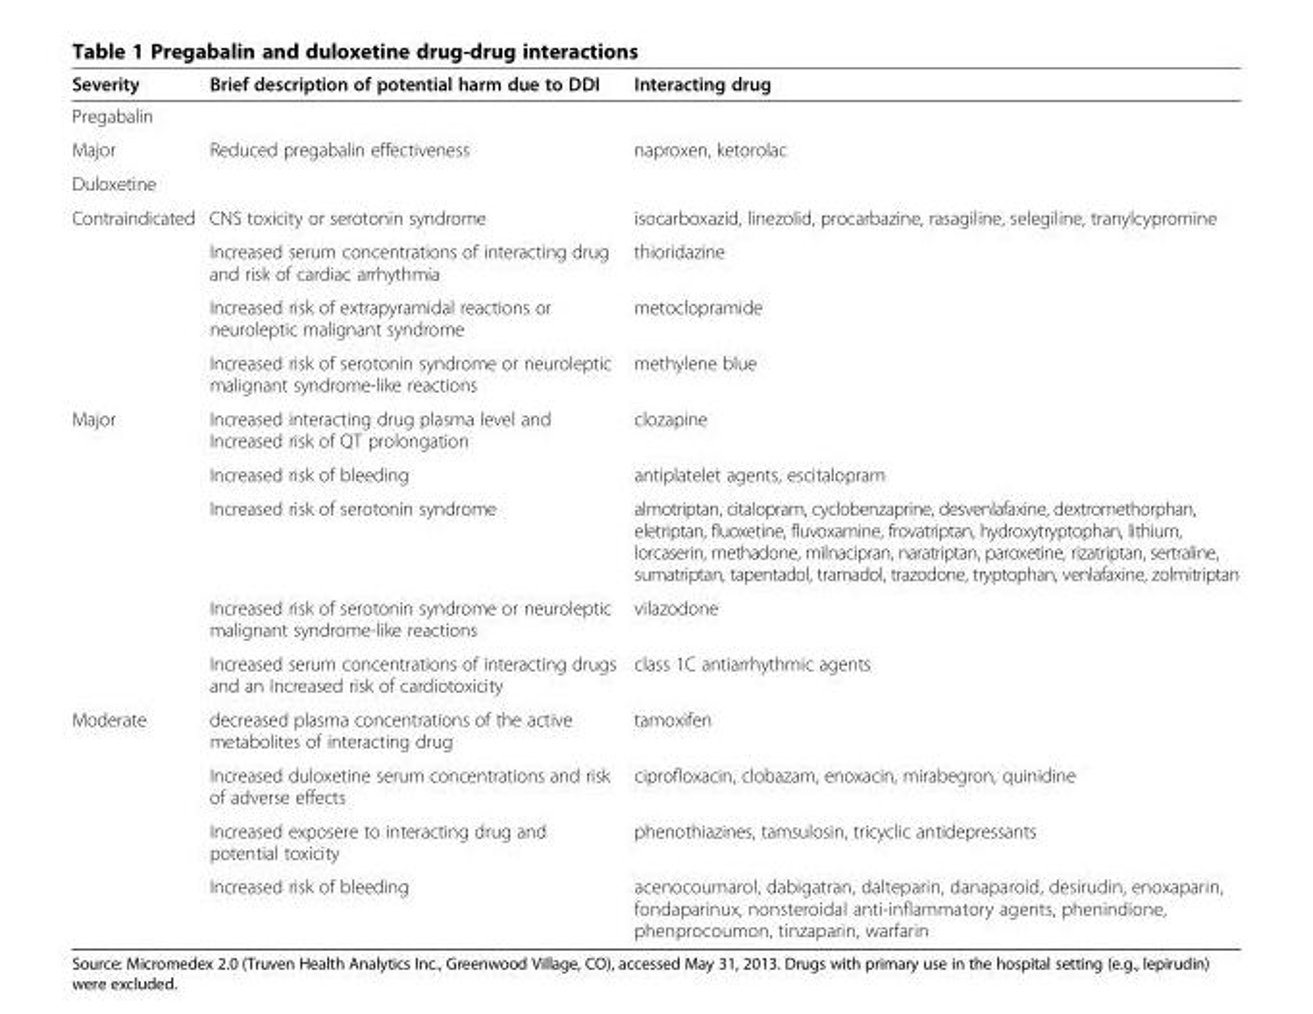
<table><thead><tr><td>Severity</td><td>Brief description of potential harm due to DDI</td><td>Interacting drug</td></tr></thead><tbody><tr><td colspan="3">Pregabalin</td></tr><tr><td>Major</td><td>Reduced pregabalin effectiveness</td><td>naproxen, ketorolac</td></tr><tr><td colspan="3">Duloxetine</td></tr><tr><td rowspan="4">Contraindicated</td><td>CNS toxicity or serotonin syndrome</td><td>isocarboxazid, linezolid, procarbazine, rasagiline, selegiline, tranylcypromine</td></tr><tr><td>Increased serum concentrations of interacting drug and risk of cardiac arrhythmia</td><td>thioridazine</td></tr><tr><td>Increased risk of extrapyramidal reactions or neuroleptic malignant syndrome</td><td>metoclopramide</td></tr><tr><td>Increased risk of serotonin syndrome or neuroleptic malignant syndrome-like reactions</td><td>methylene blue</td></tr><tr><td rowspan="5">Major</td><td>Increased interacting drug plasma level and Increased risk of QT prolongation</td><td>clozapine</td></tr><tr><td>Increased risk of bleeding</td><td>antiplatelet agents, escitalopram</td></tr><tr><td>Increased risk of serotonin syndrome</td><td>almotriptan, citalopram, cyclobenzaprine, desvenlafaxine, dextromethorphan, eletriptan, fluoxetine, fluvoxamine, frovatriptan, hydroxytryptophan, lithium, lorcaserin, methadone, milnacipran, naratriptan, paroxetine, rizatriptan, sertraline, sumatriptan, tapentadol, tramadol, trazodone, tryptophan, venlafaxine, zolmitriptan</td></tr><tr><td>Increased risk of serotonin syndrome or neuroleptic malignant syndrome-like reactions</td><td>vilazodone</td></tr><tr><td>Increased serum concentrations of interacting drugs and an Increased risk of cardiotoxicity</td><td>class 1C antiarrhythmic agents</td></tr><tr><td rowspan="4">Moderate</td><td>decreased plasma concentrations of the active metabolites of interacting drug</td><td>tamoxifen</td></tr><tr><td>Increased duloxetine serum concentrations and risk of adverse effects</td><td>ciprofloxacin, clobazam, enoxacin, mirabegron, quinidine</td></tr><tr><td>Increased exposere to interacting drug and potential toxicity</td><td>phenothiazines, tamsulosin, tricyclic antidepressants</td></tr><tr><td>Increased risk of bleeding</td><td>acenocoumarol, dabigatran, dalteparin, danaparoid, desirudin, enoxaparin, fondaparinux, nonsteroidal anti-inflammatory agents, phenindione, phenprocoumon, tinzaparin, warfarin</td></tr></tbody></table>